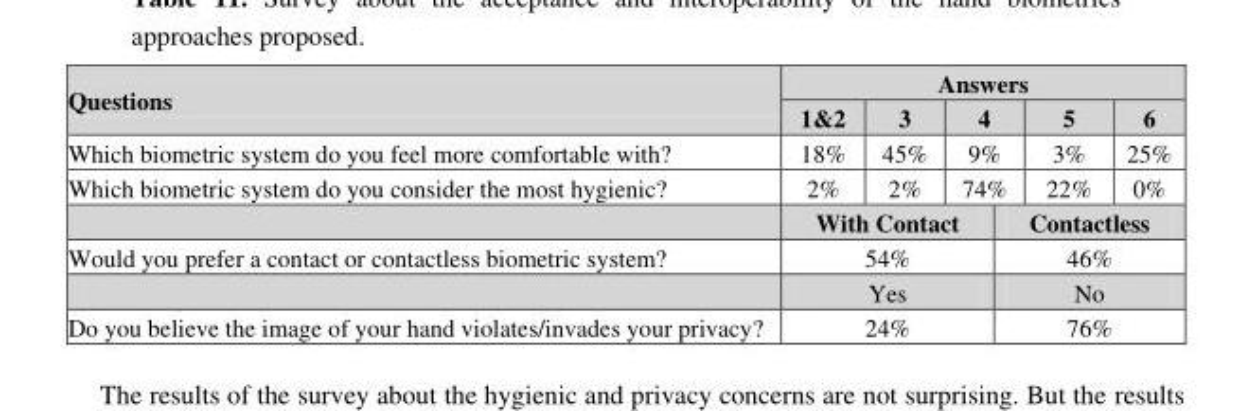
<table><thead><tr><td rowspan="2">Questions</td><td colspan="5">Answers</td></tr><tr><td>1&amp;2</td><td>3</td><td>4</td><td>5</td><td>6</td></tr></thead><tbody><tr><td>Which biometric system do you feel more comfortable with?</td><td>18%</td><td>45%</td><td>9%</td><td>3%</td><td>25%</td></tr><tr><td rowspan="2">Which biometric system do you consider the most hygienic?</td><td>2%</td><td>2%</td><td>74%</td><td>22%</td><td>0%</td></tr><tr><td colspan="3">With Contact</td><td colspan="2">Contactless</td></tr><tr><td rowspan="2">Would you prefer a contact or contactless biometric system?</td><td colspan="3">54%</td><td colspan="2">46%</td></tr><tr><td colspan="3">Yes</td><td colspan="2">No</td></tr><tr><td>Do you believe the image of your hand violates/invades your privacy?</td><td colspan="3">24%</td><td colspan="2">76%</td></tr></tbody></table>